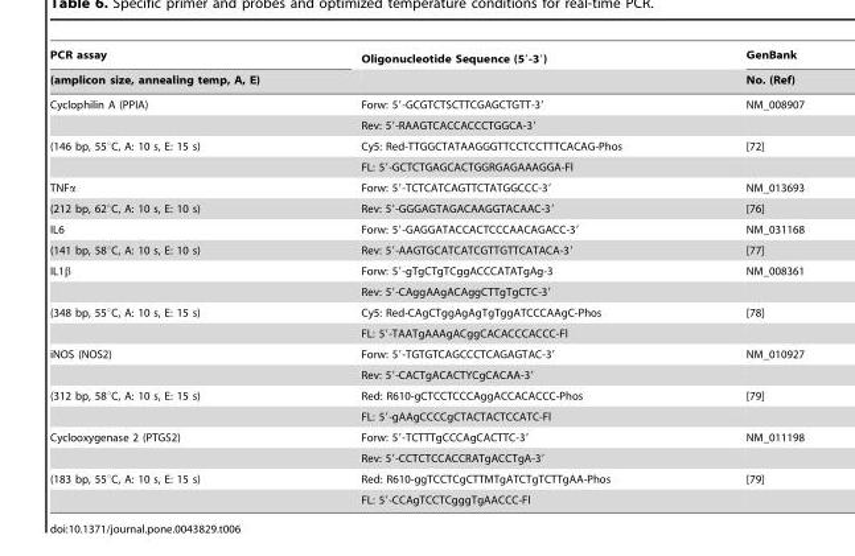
<table><thead><tr><td rowspan="2">PCR assay (amplicon size, annealing temp, A, E)</td><td rowspan="2">Oligonucleotide Sequence (5′-3′)</td><td rowspan="2">GenBank No. (Ref)</td></tr><tr></tr></thead><tbody><tr><td rowspan="2">Cyclophilin A (PPIA)</td><td>Forw: 5′-GCGTCTSCTTCGAGCTGTT-3′</td><td>NM_008907</td></tr><tr><td>Rev: 5′-RAAGTCACCACCCTGGCA-3′</td><td></td></tr><tr><td rowspan="2">(146 bp, 55°C, A: 10 s, E: 15 s)</td><td>Cy5: Red-TTGGCTATAAGGGTTCCTCCTTTCACAG-Phos</td><td>[72]</td></tr><tr><td>FL: 5′-GCTCTGAGCACTGGRGAGAAAGGA-Fl</td><td></td></tr><tr><td>TNFα</td><td>Forw: 5′-TCTCATCAGTTCTATGGCCC-3′</td><td>NM_013693</td></tr><tr><td>(212 bp, 62°C, A: 10 s, E: 10 s)</td><td>Rev: 5′-GGGAGTAGACAAGGTACAAC-3′</td><td>[76]</td></tr><tr><td>IL6</td><td>Forw: 5′-GAGGATACCACTCCCAACAGACC-3′</td><td>NM_031168</td></tr><tr><td>(141 bp, 58°C, A: 10 s, E: 10 s)</td><td>Rev: 5′-AAGTGCATCATCGTTGTTCATACA-3′</td><td>[77]</td></tr><tr><td rowspan="2">IL1β</td><td>Forw: 5′-gTgCTgTCggACCCATATgAg-3</td><td>NM_008361</td></tr><tr><td>Rev: 5′-CAggAAgACAggCTTgTgCTC-3′</td><td></td></tr><tr><td rowspan="2">(348 bp, 55°C, A: 10 s, E: 15 s)</td><td>Cy5: Red-CAgCTggAgAgTgTggATCCCAAgC-Phos</td><td>[78]</td></tr><tr><td>FL: 5′-TAATgAAAgACggCACACCCACCC-Fl</td><td></td></tr><tr><td rowspan="2">iNOS (NOS2)</td><td>Forw: 5′-TGTGTCAGCCCTCAGAGTAC-3′</td><td>NM_010927</td></tr><tr><td>Rev: 5′-CACTgACACTYCgCACAA-3′</td><td></td></tr><tr><td rowspan="2">(312 bp, 58°C, A: 10 s, E: 15 s)</td><td>Red: R610-gCTCCTCCCAggACCACACCC-Phos</td><td>[79]</td></tr><tr><td>FL: 5′-gAAgCCCCgCTACTACTCCATC-Fl</td><td></td></tr><tr><td rowspan="2">Cyclooxygenase 2 (PTGS2)</td><td>Forw: 5′-TCTTTgCCCAgCACTTC-3′</td><td>NM_011198</td></tr><tr><td>Rev: 5′-CCTCTCCACCRATgACCTgA-3′</td><td></td></tr><tr><td rowspan="2">(183 bp, 55°C, A: 10 s, E: 15 s)</td><td>Red: R610-ggTCCTCgCTTMTgATCTgTCTTgAA-Phos</td><td>[79]</td></tr><tr><td>FL: 5′-CCAgTCCTCgggTgAACCC-Fl</td><td></td></tr></tbody></table>